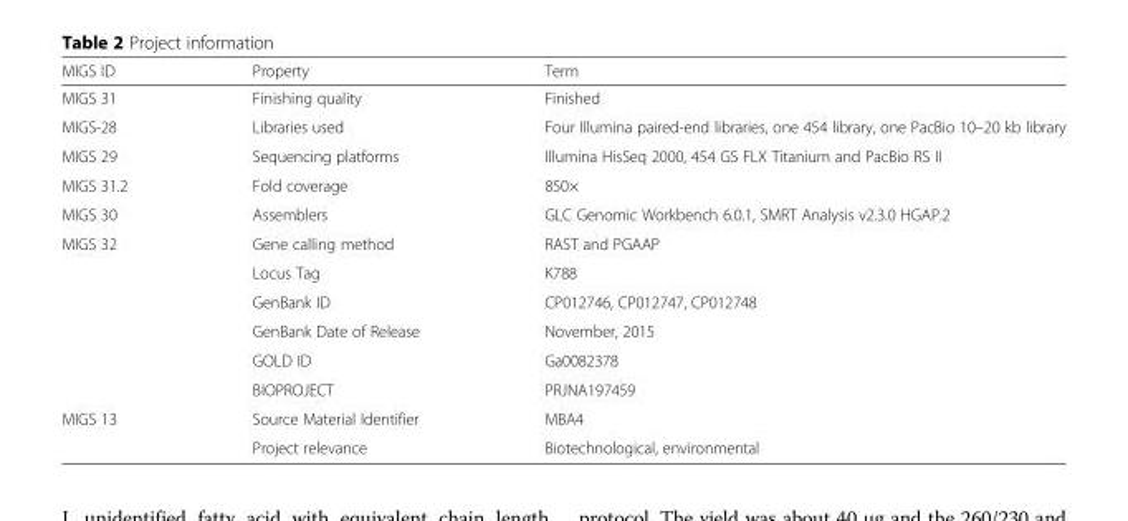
<table><thead><tr><td>MIGS ID</td><td>Property</td><td>Term</td></tr></thead><tbody><tr><td>MIGS 31</td><td>Finishing quality</td><td>Finished</td></tr><tr><td>MIGS-28</td><td>Libraries used</td><td>Four Illumina paired-end libraries, one 454 library, one PacBio 10–20 kb library</td></tr><tr><td>MIGS 29</td><td>Sequencing platforms</td><td>Illumina HisSeq 2000, 454 GS FLX Titanium and PacBio RS II</td></tr><tr><td>MIGS 31.2</td><td>Fold coverage</td><td>850×</td></tr><tr><td>MIGS 30</td><td>Assemblers</td><td>GLC Genomic Workbench 6.0.1, SMRT Analysis v2.3.0 HGAP.2</td></tr><tr><td rowspan="6">MIGS 32</td><td>Gene calling method</td><td>RAST and PGAAP</td></tr><tr><td>Locus Tag</td><td>K788</td></tr><tr><td>GenBank ID</td><td>CP012746, CP012747, CP012748</td></tr><tr><td>GenBank Date of Release</td><td>November, 2015</td></tr><tr><td>GOLD ID</td><td>Ga0082378</td></tr><tr><td>BIOPROJECT</td><td>PRJNA197459</td></tr><tr><td rowspan="2">MIGS 13</td><td>Source Material Identifier</td><td>MBA4</td></tr><tr><td>Project relevance</td><td>Biotechnological, environmental</td></tr></tbody></table>